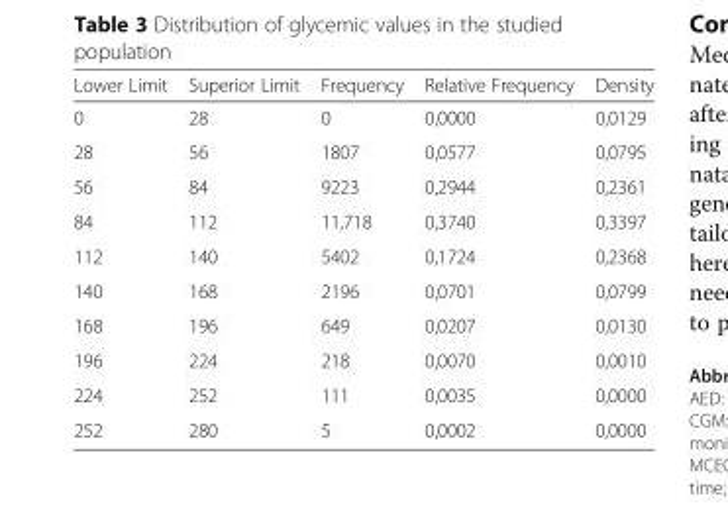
<table><thead><tr><td>Lower Limit</td><td>Superior Limit</td><td>Frequency</td><td>Relative Frequency</td><td>Density</td></tr></thead><tbody><tr><td>0</td><td>28</td><td>0</td><td>0,0000</td><td>0,0129</td></tr><tr><td>28</td><td>56</td><td>1807</td><td>0,0577</td><td>0,0795</td></tr><tr><td>56</td><td>84</td><td>9223</td><td>0,2944</td><td>0,2361</td></tr><tr><td>84</td><td>112</td><td>11,718</td><td>0,3740</td><td>0,3397</td></tr><tr><td>112</td><td>140</td><td>5402</td><td>0,1724</td><td>0,2368</td></tr><tr><td>140</td><td>168</td><td>2196</td><td>0,0701</td><td>0,0799</td></tr><tr><td>168</td><td>196</td><td>649</td><td>0,0207</td><td>0,0130</td></tr><tr><td>196</td><td>224</td><td>218</td><td>0,0070</td><td>0,0010</td></tr><tr><td>224</td><td>252</td><td>111</td><td>0,0035</td><td>0,0000</td></tr><tr><td>252</td><td>280</td><td>5</td><td>0,0002</td><td>0,0000</td></tr></tbody></table>